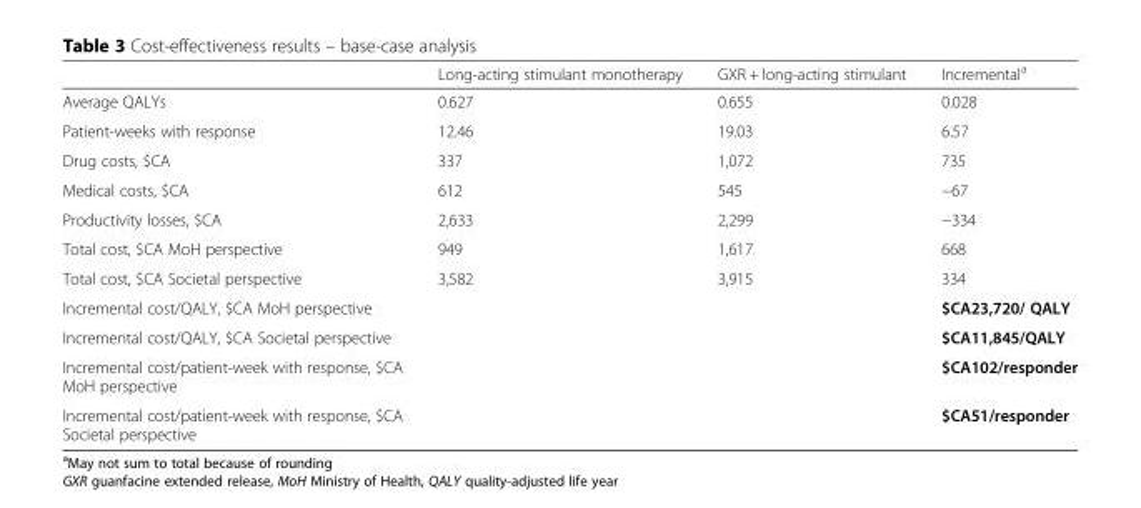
<table><thead><tr><td></td><td>Long-acting stimulant monotherapy</td><td>GXR + long-acting stimulant</td><td>Incremental<sup>a</sup></td></tr></thead><tbody><tr><td>Average QALYs</td><td>0.627</td><td>0.655</td><td>0.028</td></tr><tr><td>Patient-weeks with response</td><td>12.46</td><td>19.03</td><td>6.57</td></tr><tr><td>Drug costs, $CA</td><td>337</td><td>1,072</td><td>735</td></tr><tr><td>Medical costs, $CA</td><td>612</td><td>545</td><td>−67</td></tr><tr><td>Productivity losses, $CA</td><td>2,633</td><td>2,299</td><td>−334</td></tr><tr><td>Total cost, $CA MoH perspective</td><td>949</td><td>1,617</td><td>668</td></tr><tr><td>Total cost, $CA Societal perspective</td><td>3,582</td><td>3,915</td><td>334</td></tr><tr><td>Incremental cost/QALY, $CA MoH perspective</td><td></td><td></td><td>$CA23,720/ QALY</td></tr><tr><td>Incremental cost/QALY, $CA Societal perspective</td><td></td><td></td><td>$CA11,845/QALY</td></tr><tr><td>Incremental cost/patient-week with response, $CA MoH perspective</td><td></td><td></td><td>$CA102/responder</td></tr><tr><td>Incremental cost/patient-week with response, $CA Societal perspective</td><td></td><td></td><td>$CA51/responder</td></tr></tbody></table>